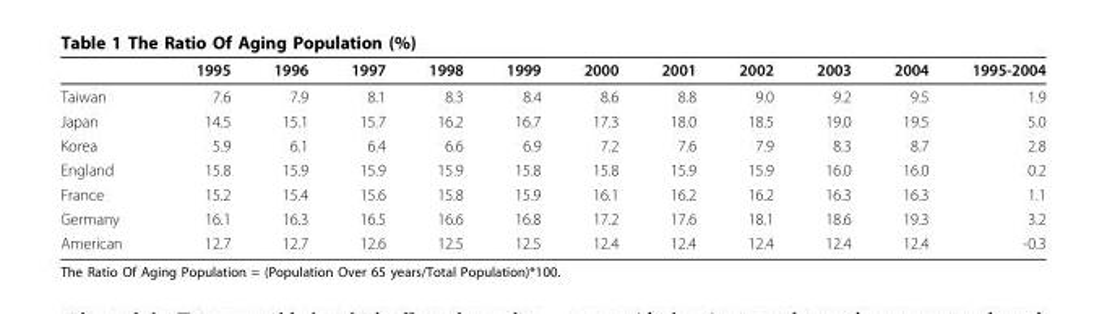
<table><thead><tr><td></td><td>1995</td><td>1996</td><td>1997</td><td>1998</td><td>1999</td><td>2000</td><td>2001</td><td>2002</td><td>2003</td><td>2004</td><td>1995-2004</td></tr></thead><tbody><tr><td>Taiwan</td><td>7.6</td><td>7.9</td><td>8.1</td><td>8.3</td><td>8.4</td><td>8.6</td><td>8.8</td><td>9.0</td><td>9.2</td><td>9.5</td><td>1.9</td></tr><tr><td>Japan</td><td>14.5</td><td>15.1</td><td>15.7</td><td>16.2</td><td>16.7</td><td>17.3</td><td>18.0</td><td>18.5</td><td>19.0</td><td>19.5</td><td>5.0</td></tr><tr><td>Korea</td><td>5.9</td><td>6.1</td><td>6.4</td><td>6.6</td><td>6.9</td><td>7.2</td><td>7.6</td><td>7.9</td><td>8.3</td><td>8.7</td><td>2.8</td></tr><tr><td>England</td><td>15.8</td><td>15.9</td><td>15.9</td><td>15.9</td><td>15.8</td><td>15.8</td><td>15.9</td><td>15.9</td><td>16.0</td><td>16.0</td><td>0.2</td></tr><tr><td>France</td><td>15.2</td><td>15.4</td><td>15.6</td><td>15.8</td><td>15.9</td><td>16.1</td><td>16.2</td><td>16.2</td><td>16.3</td><td>16.3</td><td>1.1</td></tr><tr><td>Germany</td><td>16.1</td><td>16.3</td><td>16.5</td><td>16.6</td><td>16.8</td><td>17.2</td><td>17.6</td><td>18.1</td><td>18.6</td><td>19.3</td><td>3.2</td></tr><tr><td>American</td><td>12.7</td><td>12.7</td><td>12.6</td><td>12.5</td><td>12.5</td><td>12.4</td><td>12.4</td><td>12.4</td><td>12.4</td><td>12.4</td><td>-0.3</td></tr></tbody></table>